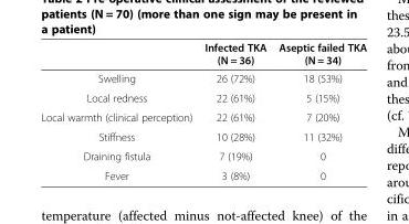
<table><thead><tr><td></td><td>Infected TKA (N = 36)</td><td>Aseptic failed TKA (N = 34)</td></tr></thead><tbody><tr><td>Swelling</td><td>26 (72%)</td><td>18 (53%)</td></tr><tr><td>Local redness</td><td>22 (61%)</td><td>5 (15%)</td></tr><tr><td>Local warmth (clinical perception)</td><td>22 (61%)</td><td>7 (20%)</td></tr><tr><td>Stiffness</td><td>10 (28%)</td><td>11 (32%)</td></tr><tr><td>Draining fistula</td><td>7 (19%)</td><td>0</td></tr><tr><td>Fever</td><td>3 (8%)</td><td>0</td></tr></tbody></table>